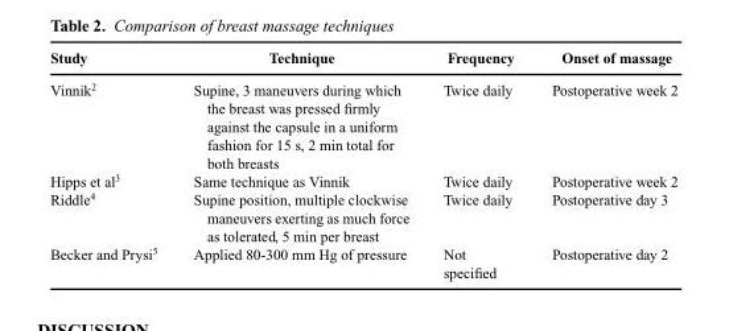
<table><thead><tr><td>Study</td><td>Technique</td><td>Frequency</td><td>Onset of massage</td></tr></thead><tbody><tr><td>Vinnik<sup>2</sup></td><td>Supine, 3 maneuvers during which the breast was pressed firmly against the capsule in a uniform fashion for 15 s, 2 min total for both breasts</td><td>Twice daily</td><td>Postoperative week 2</td></tr><tr><td>Hipps et al<sup>3</sup></td><td>Same technique as Vinnik</td><td>Twice daily</td><td>Postoperative week 2</td></tr><tr><td>Riddle<sup>4</sup></td><td>Supine position, multiple clockwise maneuvers exerting as much force as tolerated, 5 min per breast</td><td>Twice daily</td><td>Postoperative day 3</td></tr><tr><td>Becker and Prysi<sup>5</sup></td><td>Applied 80-300 mm Hg of pressure</td><td>Not specified</td><td>Postoperative day 2</td></tr></tbody></table>